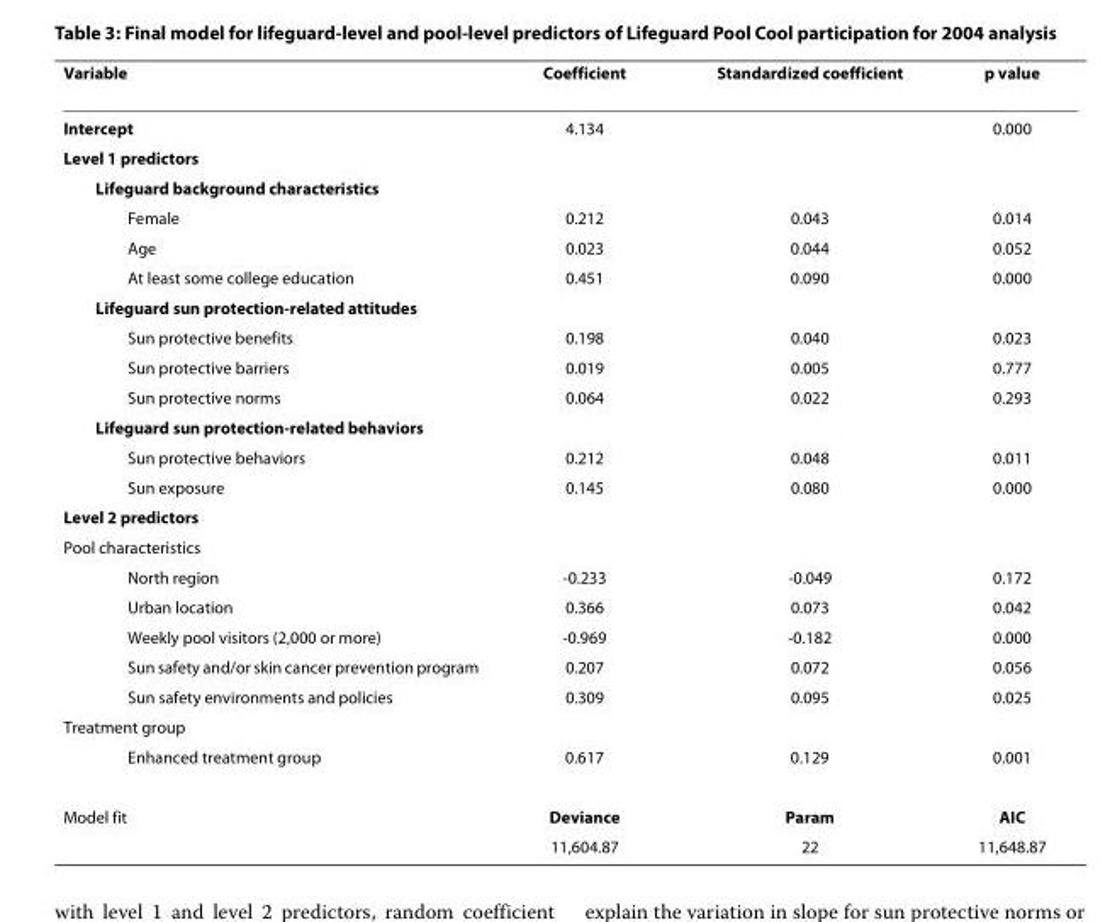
<table><thead><tr><td>Variable</td><td>Coefficient</td><td>Standardized coefficient</td><td>p value</td></tr></thead><tbody><tr><td>Intercept</td><td>4.134</td><td></td><td>0.000</td></tr><tr><td colspan="4">Level 1 predictors</td></tr><tr><td colspan="4">Lifeguard background characteristics</td></tr><tr><td>Female</td><td>0.212</td><td>0.043</td><td>0.014</td></tr><tr><td>Age</td><td>0.023</td><td>0.044</td><td>0.052</td></tr><tr><td>At least some college education</td><td>0.451</td><td>0.090</td><td>0.000</td></tr><tr><td colspan="4">Lifeguard sun protection-related attitudes</td></tr><tr><td>Sun protective benefits</td><td>0.198</td><td>0.040</td><td>0.023</td></tr><tr><td>Sun protective barriers</td><td>0.019</td><td>0.005</td><td>0.777</td></tr><tr><td>Sun protective norms</td><td>0.064</td><td>0.022</td><td>0.293</td></tr><tr><td colspan="4">Lifeguard sun protection-related behaviors</td></tr><tr><td>Sun protective behaviors</td><td>0.212</td><td>0.048</td><td>0.011</td></tr><tr><td>Sun exposure</td><td>0.145</td><td>0.080</td><td>0.000</td></tr><tr><td colspan="4">Level 2 predictors</td></tr><tr><td colspan="4">Pool characteristics</td></tr><tr><td>North region</td><td>-0.233</td><td>-0.049</td><td>0.172</td></tr><tr><td>Urban location</td><td>0.366</td><td>0.073</td><td>0.042</td></tr><tr><td>Weekly pool visitors (2,000 or more)</td><td>-0.969</td><td>-0.182</td><td>0.000</td></tr><tr><td>Sun safety and/or skin cancer prevention program</td><td>0.207</td><td>0.072</td><td>0.056</td></tr><tr><td>Sun safety environments and policies</td><td>0.309</td><td>0.095</td><td>0.025</td></tr><tr><td colspan="4">Treatment group</td></tr><tr><td>Enhanced treatment group</td><td>0.617</td><td>0.129</td><td>0.001</td></tr><tr><td rowspan="2">Model fit</td><td>Deviance</td><td>Param</td><td>AIC</td></tr><tr><td>11,604.87</td><td>22</td><td>11,648.87</td></tr></tbody></table>